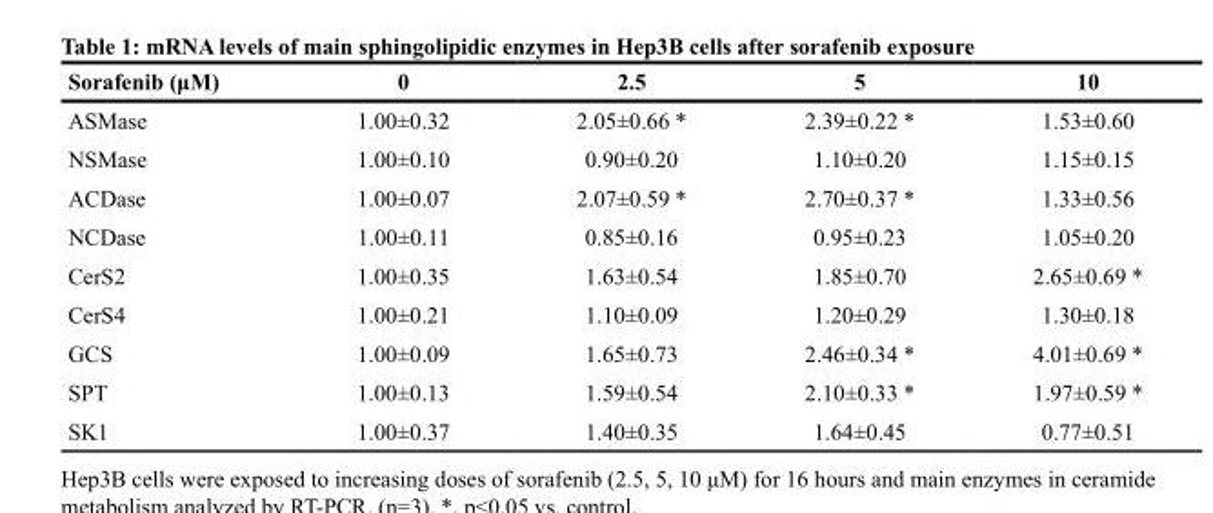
<table><thead><tr><td>Sorafenib (μM)</td><td>0</td><td>2.5</td><td>5</td><td>10</td></tr></thead><tbody><tr><td>ASMase</td><td>1.00±0.32</td><td>2.05±0.66 *</td><td>2.39±0.22 *</td><td>1.53±0.60</td></tr><tr><td>NSMase</td><td>1.00±0.10</td><td>0.90±0.20</td><td>1.10±0.20</td><td>1.15±0.15</td></tr><tr><td>ACDase</td><td>1.00±0.07</td><td>2.07±0.59 *</td><td>2.70±0.37 *</td><td>1.33±0.56</td></tr><tr><td>NCDase</td><td>1.00±0.11</td><td>0.85±0.16</td><td>0.95±0.23</td><td>1.05±0.20</td></tr><tr><td>CerS2</td><td>1.00±0.35</td><td>1.63±0.54</td><td>1.85±0.70</td><td>2.65±0.69 *</td></tr><tr><td>CerS4</td><td>1.00±0.21</td><td>1.10±0.09</td><td>1.20±0.29</td><td>1.30±0.18</td></tr><tr><td>GCS</td><td>1.00±0.09</td><td>1.65±0.73</td><td>2.46±0.34 *</td><td>4.01±0.69 *</td></tr><tr><td>SPT</td><td>1.00±0.13</td><td>1.59±0.54</td><td>2.10±0.33 *</td><td>1.97±0.59 *</td></tr><tr><td>SK1</td><td>1.00±0.37</td><td>1.40±0.35</td><td>1.64±0.45</td><td>0.77±0.51</td></tr></tbody></table>